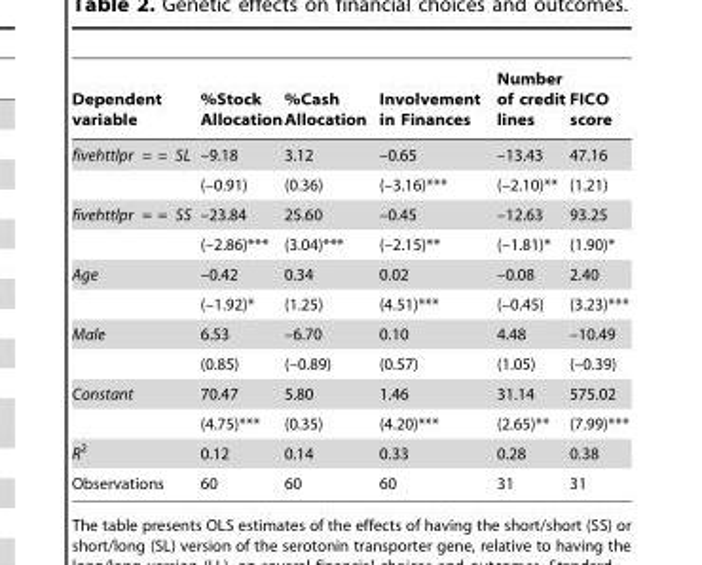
<table><thead><tr><td>Dependent variable</td><td>%Stock Allocation</td><td>%Cash Allocation</td><td>Involvement in Finances</td><td>Number of credit lines</td><td>FICO score</td></tr></thead><tbody><tr><td rowspan="2">fivehttlpr = = SL</td><td>–9.18</td><td>3.12</td><td>–0.65</td><td>–13.43</td><td>47.16</td></tr><tr><td>(–0.91)</td><td>(0.36)</td><td>(–3.16)***</td><td>(–2.10)**</td><td>(1.21)</td></tr><tr><td rowspan="2">fivehttlpr = = SS</td><td>–23.84</td><td>25.60</td><td>–0.45</td><td>–12.63</td><td>93.25</td></tr><tr><td>(–2.86)***</td><td>(3.04)***</td><td>(–2.15)**</td><td>(–1.81)*</td><td>(1.90)*</td></tr><tr><td rowspan="2">Age</td><td>–0.42</td><td>0.34</td><td>0.02</td><td>–0.08</td><td>2.40</td></tr><tr><td>(–1.92)*</td><td>(1.25)</td><td>(4.51)***</td><td>(–0.45)</td><td>(3.23)***</td></tr><tr><td rowspan="2">Male</td><td>6.53</td><td>–6.70</td><td>0.10</td><td>4.48</td><td>–10.49</td></tr><tr><td>(0.85)</td><td>(–0.89)</td><td>(0.57)</td><td>(1.05)</td><td>(–0.39)</td></tr><tr><td rowspan="2">Constant</td><td>70.47</td><td>5.80</td><td>1.46</td><td>31.14</td><td>575.02</td></tr><tr><td>(4.75)***</td><td>(0.35)</td><td>(4.20)***</td><td>(2.65)**</td><td>(7.99)***</td></tr><tr><td>R<sup>2</sup></td><td>0.12</td><td>0.14</td><td>0.33</td><td>0.28</td><td>0.38</td></tr><tr><td>Observations</td><td>60</td><td>60</td><td>60</td><td>31</td><td>31</td></tr></tbody></table>